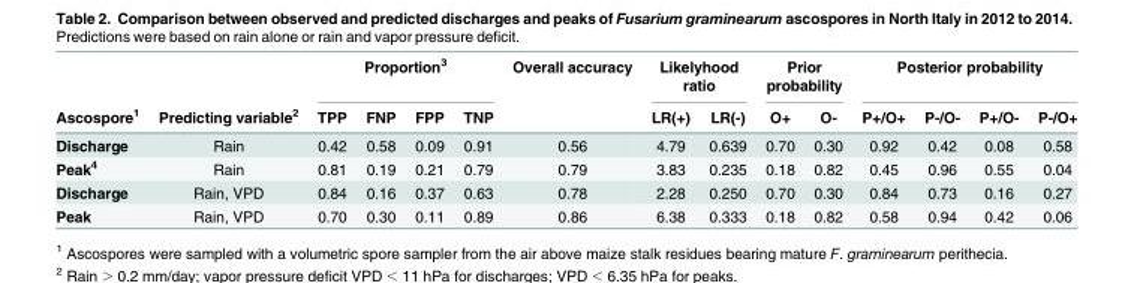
<table><thead><tr><td rowspan="2">Ascospore<sup>1</sup></td><td rowspan="2">Predicting variable<sup>2</sup></td><td colspan="4">Proportion<sup>3</sup></td><td rowspan="2">Overall accuracy</td><td colspan="2">Likelyhood ratio</td><td colspan="2">Prior probability</td><td colspan="4">Posterior probability</td></tr><tr><td>TPP</td><td>FNP</td><td>FPP</td><td>TNP</td><td>LR(+)</td><td>LR(-)</td><td>O+</td><td>O-</td><td>P+/O+</td><td>P-/O-</td><td>P+/O-</td><td>P-/O+</td></tr></thead><tbody><tr><td>Discharge</td><td>Rain</td><td>0.42</td><td>0.58</td><td>0.09</td><td>0.91</td><td>0.56</td><td>4.79</td><td>0.639</td><td>0.70</td><td>0.30</td><td>0.92</td><td>0.42</td><td>0.08</td><td>0.58</td></tr><tr><td>Peak<sup>4</sup></td><td>Rain</td><td>0.81</td><td>0.19</td><td>0.21</td><td>0.79</td><td>0.79</td><td>3.83</td><td>0.235</td><td>0.18</td><td>0.82</td><td>0.45</td><td>0.96</td><td>0.55</td><td>0.04</td></tr><tr><td>Discharge</td><td>Rain, VPD</td><td>0.84</td><td>0.16</td><td>0.37</td><td>0.63</td><td>0.78</td><td>2.28</td><td>0.250</td><td>0.70</td><td>0.30</td><td>0.84</td><td>0.73</td><td>0.16</td><td>0.27</td></tr><tr><td>Peak</td><td>Rain, VPD</td><td>0.70</td><td>0.30</td><td>0.11</td><td>0.89</td><td>0.86</td><td>6.38</td><td>0.333</td><td>0.18</td><td>0.82</td><td>0.58</td><td>0.94</td><td>0.42</td><td>0.06</td></tr></tbody></table>